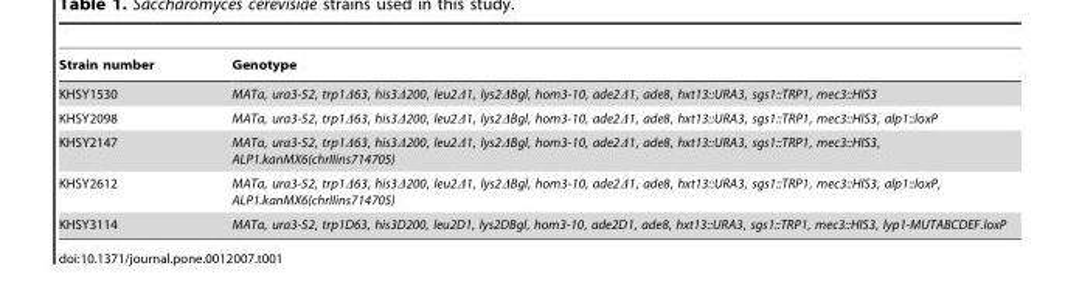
<table><thead><tr><td>Strain number</td><td>Genotype</td></tr></thead><tbody><tr><td>KHSY1530</td><td>MATa, ura3-52, trp1Δ63, his3Δ200, leu2Δ1, lys2ΔBgl, hom3-10, ade2Δ1, ade8, hxt13::URA3, sgs1::TRP1, mec3::HIS3</td></tr><tr><td>KHSY2098</td><td>MATa, ura3-52, trp1Δ63, his3Δ200, leu2Δ1, lys2ΔBgl, hom3-10, ade2Δ1, ade8, hxt13::URA3, sgs1::TRP1, mec3::HIS3, alp1::loxP</td></tr><tr><td>KHSY2147</td><td>MATa, ura3-52, trp1Δ63, his3Δ200, leu2Δ1, lys2ΔBgl, hom3-10, ade2Δ1, ade8, hxt13::URA3, sgs1::TRP1, mec3::HIS3, ALP1.kanMX6(chrIIins714705)</td></tr><tr><td>KHSY2612</td><td>MATa, ura3-52, trp1Δ63, his3Δ200, leu2Δ1, lys2ΔBgl, hom3-10, ade2Δ1, ade8, hxt13::URA3, sgs1::TRP1, mec3::HIS3, alp1::loxP, ALP1.kanMX6(chrIIins714705)</td></tr><tr><td>KHSY3114</td><td>MATa, ura3-52, trp1D63, his3D200, leu2D1, lys2DBgl, hom3-10, ade2D1, ade8, hxt13::URA3, sgs1::TRP1, mec3::HIS3, lyp1-MUTABCDEF.loxP</td></tr></tbody></table>